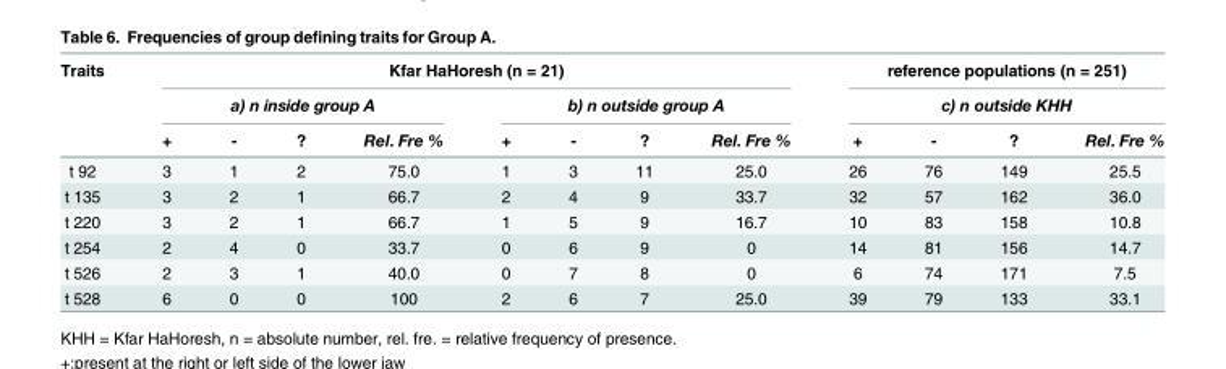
<table><thead><tr><td rowspan="3">Traits</td><td colspan="8">Kfar HaHoresh (n = 21)</td><td rowspan="2" colspan="4">reference populations (n = 251) c) n outside KHH</td></tr><tr><td colspan="4">a) n inside group A</td><td colspan="4">b) n outside group A</td></tr><tr><td>+</td><td>-</td><td>?</td><td>Rel. Fre %</td><td>+</td><td>-</td><td>?</td><td>Rel. Fre %</td><td>+</td><td>-</td><td>?</td><td>Rel. Fre %</td></tr></thead><tbody><tr><td>t 92</td><td>3</td><td>1</td><td>2</td><td>75.0</td><td>1</td><td>3</td><td>11</td><td>25.0</td><td>26</td><td>76</td><td>149</td><td>25.5</td></tr><tr><td>t 135</td><td>3</td><td>2</td><td>1</td><td>66.7</td><td>2</td><td>4</td><td>9</td><td>33.7</td><td>32</td><td>57</td><td>162</td><td>36.0</td></tr><tr><td>t 220</td><td>3</td><td>2</td><td>1</td><td>66.7</td><td>1</td><td>5</td><td>9</td><td>16.7</td><td>10</td><td>83</td><td>158</td><td>10.8</td></tr><tr><td>t 254</td><td>2</td><td>4</td><td>0</td><td>33.7</td><td>0</td><td>6</td><td>9</td><td>0</td><td>14</td><td>81</td><td>156</td><td>14.7</td></tr><tr><td>t 526</td><td>2</td><td>3</td><td>1</td><td>40.0</td><td>0</td><td>7</td><td>8</td><td>0</td><td>6</td><td>74</td><td>171</td><td>7.5</td></tr><tr><td>t 528</td><td>6</td><td>0</td><td>0</td><td>100</td><td>2</td><td>6</td><td>7</td><td>25.0</td><td>39</td><td>79</td><td>133</td><td>33.1</td></tr></tbody></table>